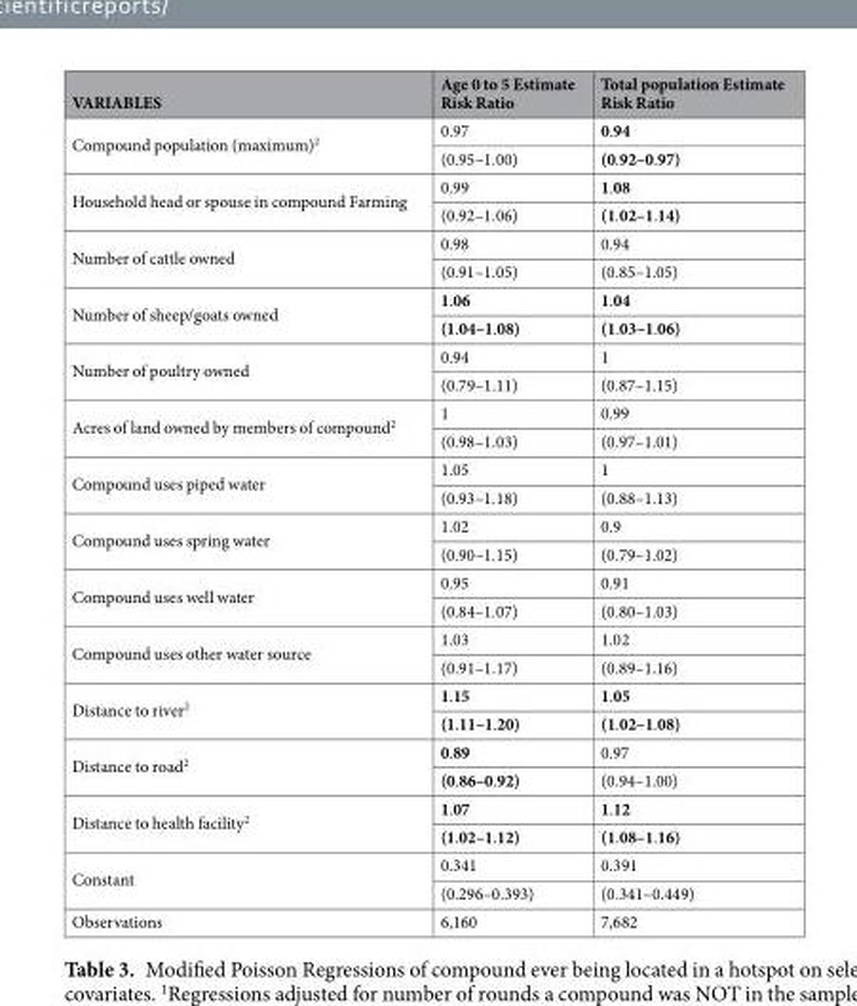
<table><thead><tr><td>VARIABLES</td><td>Age 0 to 5 Estimate Risk Ratio</td><td>Total population Estimate Risk Ratio</td></tr></thead><tbody><tr><td rowspan="2">Compound population (maximum)<sup>2</sup></td><td>0.97</td><td>0.94</td></tr><tr><td>(0.95–1.00)</td><td>(0.92–0.97)</td></tr><tr><td rowspan="2">Household head or spouse in compound Farming</td><td>0.99</td><td>1.08</td></tr><tr><td>(0.92–1.06)</td><td>(1.02–1.14)</td></tr><tr><td rowspan="2">Number of cattle owned</td><td>0.98</td><td>0.94</td></tr><tr><td>(0.91–1.05)</td><td>(0.85–1.05)</td></tr><tr><td rowspan="2">Number of sheep/goats owned</td><td>1.06</td><td>1.04</td></tr><tr><td>(1.04–1.08)</td><td>(1.03–1.06)</td></tr><tr><td rowspan="2">Number of poultry owned</td><td>0.94</td><td>1</td></tr><tr><td>(0.79–1.11)</td><td>(0.87–1.15)</td></tr><tr><td rowspan="2">Acres of land owned by members of compound<sup>2</sup></td><td>1</td><td>0.99</td></tr><tr><td>(0.98–1.03)</td><td>(0.97–1.01)</td></tr><tr><td rowspan="2">Compound uses piped water</td><td>1.05</td><td>1</td></tr><tr><td>(0.93–1.18)</td><td>(0.88–1.13)</td></tr><tr><td rowspan="2">Compound uses spring water</td><td>1.02</td><td>0.9</td></tr><tr><td>(0.90–1.15)</td><td>(0.79–1.02)</td></tr><tr><td rowspan="2">Compound uses well water</td><td>0.95</td><td>0.91</td></tr><tr><td>(0.84–1.07)</td><td>(0.80–1.03)</td></tr><tr><td rowspan="2">Compound uses other water source</td><td>1.03</td><td>1.02</td></tr><tr><td>(0.91–1.17)</td><td>(0.89–1.16)</td></tr><tr><td rowspan="2">Distance to river<sup>2</sup></td><td>1.15</td><td>1.05</td></tr><tr><td>(1.11–1.20)</td><td>(1.02–1.08)</td></tr><tr><td rowspan="2">Distance to road<sup>2</sup></td><td>0.89</td><td>0.97</td></tr><tr><td>(0.86–0.92)</td><td>(0.94–1.00)</td></tr><tr><td rowspan="2">Distance to health facility<sup>2</sup></td><td>1.07</td><td>1.12</td></tr><tr><td>(1.02–1.12)</td><td>(1.08–1.16)</td></tr><tr><td rowspan="2">Constant</td><td>0.341</td><td>0.391</td></tr><tr><td>(0.296–0.393)</td><td>(0.341–0.449)</td></tr><tr><td>Observations</td><td>6,160</td><td>7,682</td></tr></tbody></table>